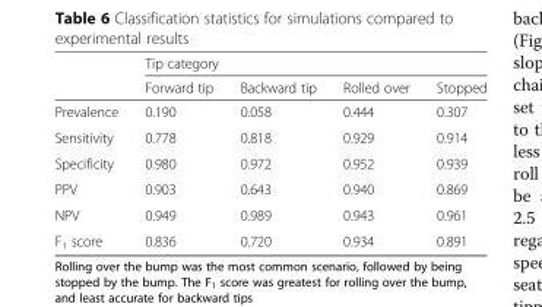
<table><thead><tr><td rowspan="2"></td><td colspan="4">Tip category</td></tr><tr><td>Forward tip</td><td>Backward tip</td><td>Rolled over</td><td>Stopped</td></tr></thead><tbody><tr><td>Prevalence</td><td>0.190</td><td>0.058</td><td>0.444</td><td>0.307</td></tr><tr><td>Sensitivity</td><td>0.778</td><td>0.818</td><td>0.929</td><td>0.914</td></tr><tr><td>Specificity</td><td>0.980</td><td>0.972</td><td>0.952</td><td>0.939</td></tr><tr><td>PPV</td><td>0.903</td><td>0.643</td><td>0.940</td><td>0.869</td></tr><tr><td>NPV</td><td>0.949</td><td>0.989</td><td>0.943</td><td>0.961</td></tr><tr><td>F<sub>1</sub> score</td><td>0.836</td><td>0.720</td><td>0.934</td><td>0.891</td></tr></tbody></table>